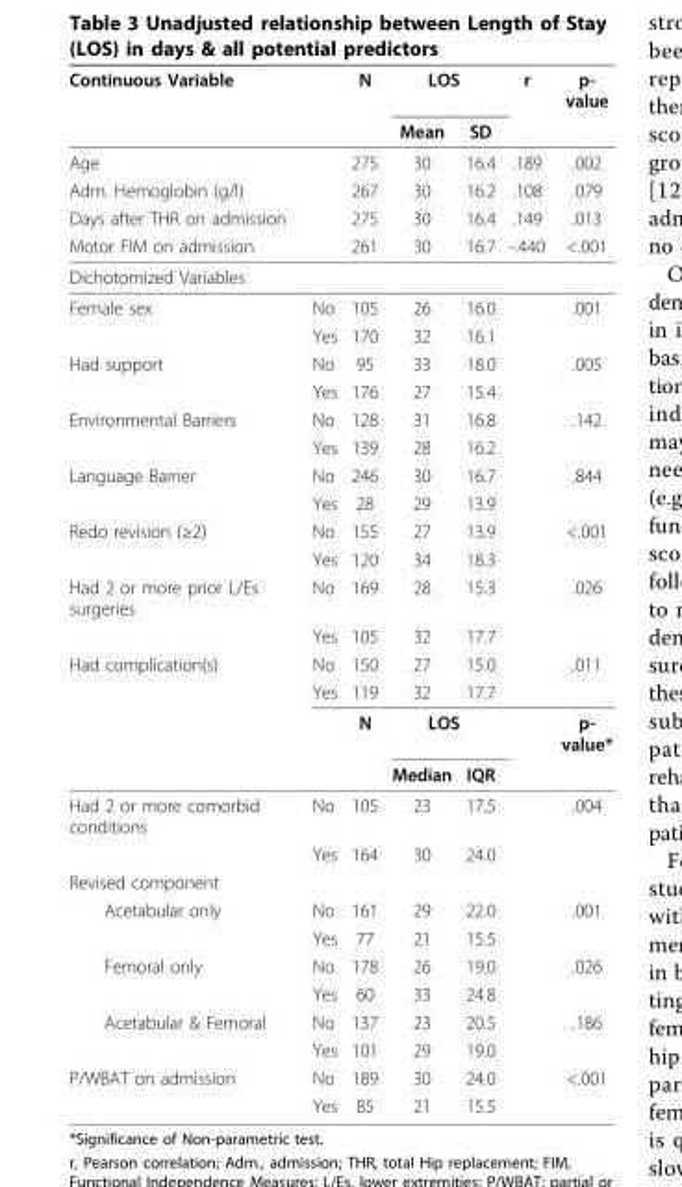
<table><thead><tr><td colspan="2">Continuous Variable</td><td rowspan="2">N</td><td colspan="2">LOS</td><td rowspan="2">r</td><td rowspan="2">p- value</td></tr><tr><td></td><td></td><td>Mean</td><td>SD</td></tr></thead><tbody><tr><td colspan="2">Age</td><td>275</td><td>30</td><td>16.4</td><td>.189</td><td>.002</td></tr><tr><td colspan="2">Adm. Hemoglobin (g/l)</td><td>267</td><td>30</td><td>16.2</td><td>.108</td><td>.079</td></tr><tr><td colspan="2">Days after THR on admission</td><td>275</td><td>30</td><td>16.4</td><td>.149</td><td>.013</td></tr><tr><td colspan="2">Motor FIM on admission</td><td>261</td><td>30</td><td>16.7</td><td>-.440</td><td>&lt;.001</td></tr><tr><td colspan="7">Dichotomized Variables</td></tr><tr><td rowspan="2">Female sex</td><td>No</td><td>105</td><td>26</td><td>16.0</td><td></td><td>.001</td></tr><tr><td>Yes</td><td>170</td><td>32</td><td>16.1</td><td></td><td></td></tr><tr><td rowspan="2">Had support</td><td>No</td><td>95</td><td>33</td><td>18.0</td><td></td><td>.005</td></tr><tr><td>Yes</td><td>176</td><td>27</td><td>15.4</td><td></td><td></td></tr><tr><td rowspan="2">Environmental Barriers</td><td>No</td><td>128</td><td>31</td><td>16.8</td><td></td><td>.142</td></tr><tr><td>Yes</td><td>139</td><td>28</td><td>16.2</td><td></td><td></td></tr><tr><td rowspan="2">Language Barrier</td><td>No</td><td>246</td><td>30</td><td>16.7</td><td></td><td>.844</td></tr><tr><td>Yes</td><td>28</td><td>29</td><td>13.9</td><td></td><td></td></tr><tr><td rowspan="2">Redo revision (≥2)</td><td>No</td><td>155</td><td>27</td><td>13.9</td><td></td><td>&lt;.001</td></tr><tr><td>Yes</td><td>120</td><td>34</td><td>18.3</td><td></td><td></td></tr><tr><td rowspan="2">Had 2 or more prior L/Es surgeries</td><td>No</td><td>169</td><td>28</td><td>15.3</td><td></td><td>.026</td></tr><tr><td>Yes</td><td>105</td><td>32</td><td>17.7</td><td></td><td></td></tr><tr><td rowspan="4">Had complication(s)</td><td>No</td><td>150</td><td>27</td><td>15.0</td><td></td><td>.011</td></tr><tr><td>Yes</td><td>119</td><td>32</td><td>17.7</td><td></td><td></td></tr><tr><td></td><td>N</td><td colspan="2">LOS</td><td></td><td>p- value*</td></tr><tr><td></td><td></td><td>Median</td><td>IQR</td><td></td><td></td></tr><tr><td rowspan="2">Had 2 or more comorbid conditions</td><td>No</td><td>105</td><td>23</td><td>17.5</td><td></td><td>.004</td></tr><tr><td>Yes</td><td>164</td><td>30</td><td>24.0</td><td></td><td></td></tr><tr><td colspan="7">Revised component</td></tr><tr><td rowspan="2">Acetabular only</td><td>No</td><td>161</td><td>29</td><td>22.0</td><td></td><td>.001</td></tr><tr><td>Yes</td><td>77</td><td>21</td><td>15.5</td><td></td><td></td></tr><tr><td rowspan="2">Femoral only</td><td>No</td><td>178</td><td>26</td><td>19.0</td><td></td><td>.026</td></tr><tr><td>Yes</td><td>60</td><td>33</td><td>24.8</td><td></td><td></td></tr><tr><td rowspan="2">Acetabular &amp; Femoral</td><td>No</td><td>137</td><td>23</td><td>20.5</td><td></td><td>.186</td></tr><tr><td>Yes</td><td>101</td><td>29</td><td>19.0</td><td></td><td></td></tr><tr><td rowspan="2">P/WBAT on admission</td><td>No</td><td>189</td><td>30</td><td>24.0</td><td></td><td>&lt;.001</td></tr><tr><td>Yes</td><td>85</td><td>21</td><td>15.5</td><td></td><td></td></tr></tbody></table>